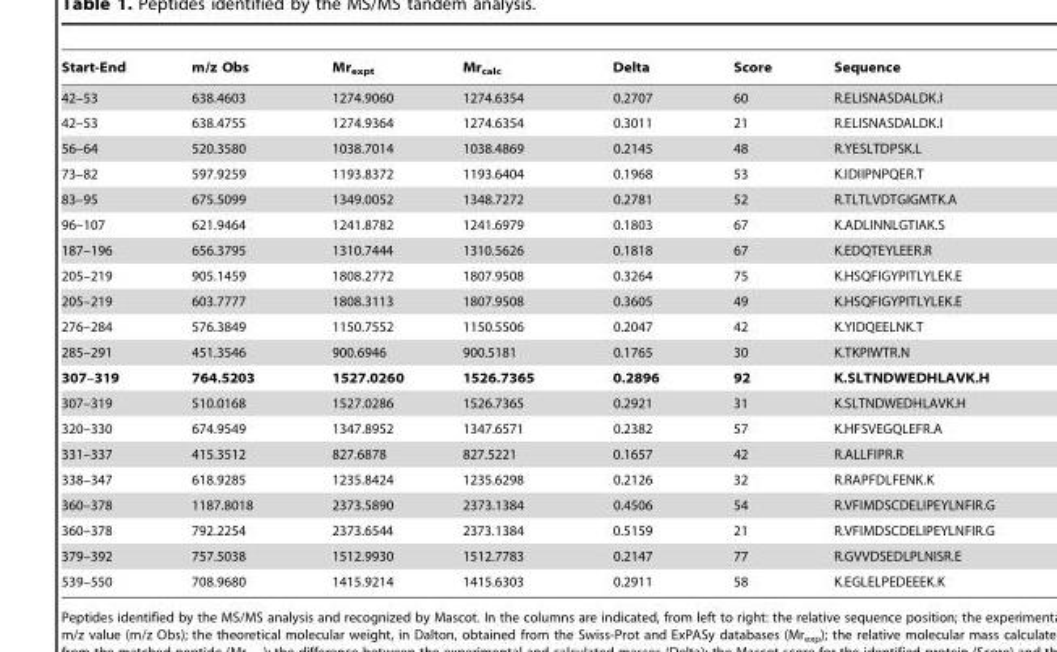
<table><thead><tr><td>Start-End</td><td>m/z Obs</td><td>Mr<sub>expt</sub></td><td>Mr<sub>calc</sub></td><td>Delta</td><td>Score</td><td>Sequence</td></tr></thead><tbody><tr><td>42–53</td><td>638.4603</td><td>1274.9060</td><td>1274.6354</td><td>0.2707</td><td>60</td><td>R.ELISNASDALDK.I</td></tr><tr><td>42–53</td><td>638.4755</td><td>1274.9364</td><td>1274.6354</td><td>0.3011</td><td>21</td><td>R.ELISNASDALDK.I</td></tr><tr><td>56–64</td><td>520.3580</td><td>1038.7014</td><td>1038.4869</td><td>0.2145</td><td>48</td><td>R.YESLTDPSK.L</td></tr><tr><td>73–82</td><td>597.9259</td><td>1193.8372</td><td>1193.6404</td><td>0.1968</td><td>53</td><td>K.IDIIPNPQER.T</td></tr><tr><td>83–95</td><td>675.5099</td><td>1349.0052</td><td>1348.7272</td><td>0.2781</td><td>52</td><td>R.TLTLVDTGIGMTK.A</td></tr><tr><td>96–107</td><td>621.9464</td><td>1241.8782</td><td>1241.6979</td><td>0.1803</td><td>67</td><td>K.ADLINNLGTIAK.S</td></tr><tr><td>187–196</td><td>656.3795</td><td>1310.7444</td><td>1310.5626</td><td>0.1818</td><td>67</td><td>K.EDQTEYLEER.R</td></tr><tr><td>205–219</td><td>905.1459</td><td>1808.2772</td><td>1807.9508</td><td>0.3264</td><td>75</td><td>K.HSQFIGYPITLYLEK.E</td></tr><tr><td>205–219</td><td>603.7777</td><td>1808.3113</td><td>1807.9508</td><td>0.3605</td><td>49</td><td>K.HSQFIGYPITLYLEK.E</td></tr><tr><td>276–284</td><td>576.3849</td><td>1150.7552</td><td>1150.5506</td><td>0.2047</td><td>42</td><td>K.YIDQEELNK.T</td></tr><tr><td>285–291</td><td>451.3546</td><td>900.6946</td><td>900.5181</td><td>0.1765</td><td>30</td><td>K.TKPIWTR.N</td></tr><tr><td>307–319</td><td>764.5203</td><td>1527.0260</td><td>1526.7365</td><td>0.2896</td><td>92</td><td>K.SLTNDWEDHLAVK.H</td></tr><tr><td>307–319</td><td>510.0168</td><td>1527.0286</td><td>1526.7365</td><td>0.2921</td><td>31</td><td>K.SLTNDWEDHLAVK.H</td></tr><tr><td>320–330</td><td>674.9549</td><td>1347.8952</td><td>1347.6571</td><td>0.2382</td><td>57</td><td>K.HFSVEGQLEFR.A</td></tr><tr><td>331–337</td><td>415.3512</td><td>827.6878</td><td>827.5221</td><td>0.1657</td><td>42</td><td>R.ALLFIPR.R</td></tr><tr><td>338–347</td><td>618.9285</td><td>1235.8424</td><td>1235.6298</td><td>0.2126</td><td>32</td><td>R.RAPFDLFENK.K</td></tr><tr><td>360–378</td><td>1187.8018</td><td>2373.5890</td><td>2373.1384</td><td>0.4506</td><td>54</td><td>R.VFIMDSCDELIPEYLNFIR.G</td></tr><tr><td>360–378</td><td>792.2254</td><td>2373.6544</td><td>2373.1384</td><td>0.5159</td><td>21</td><td>R.VFIMDSCDELIPEYLNFIR.G</td></tr><tr><td>379–392</td><td>757.5038</td><td>1512.9930</td><td>1512.7783</td><td>0.2147</td><td>77</td><td>R.GVVDSEDLPLNISR.E</td></tr><tr><td>539–550</td><td>708.9680</td><td>1415.9214</td><td>1415.6303</td><td>0.2911</td><td>58</td><td>K.EGLELPEDEEEK.K</td></tr></tbody></table>